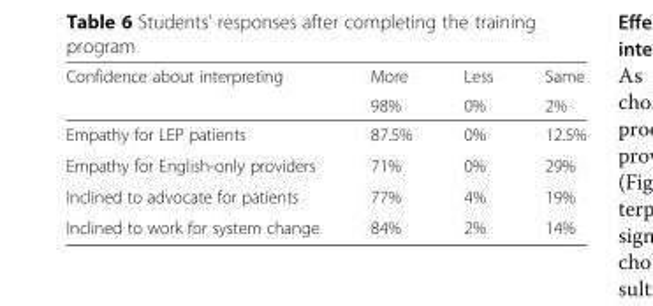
<table><thead><tr><td rowspan="2">Confidence about interpreting</td><td rowspan="2">More 98%</td><td rowspan="2">Less 0%</td><td rowspan="2">Same 2%</td></tr><tr></tr></thead><tbody><tr><td>Empathy for LEP patients</td><td>87.5%</td><td>0%</td><td>12.5%</td></tr><tr><td>Empathy for English-only providers</td><td>71%</td><td>0%</td><td>29%</td></tr><tr><td>Inclined to advocate for patients</td><td>77%</td><td>4%</td><td>19%</td></tr><tr><td>Inclined to work for system change</td><td>84%</td><td>2%</td><td>14%</td></tr></tbody></table>